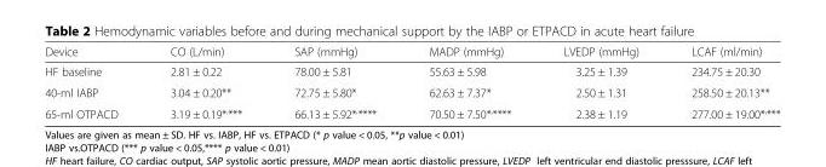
<table><thead><tr><td>Device</td><td>CO (L/min)</td><td>SAP (mmHg)</td><td>MADP (mmHg)</td><td>LVEDP (mmHg)</td><td>LCAF (ml/min)</td></tr></thead><tbody><tr><td>HF baseline</td><td>2.81 ± 0.22</td><td>78.00 ± 5.81</td><td>55.63 ± 5.98</td><td>3.25 ± 1.39</td><td>234.75 ± 20.30</td></tr><tr><td>40-ml IABP</td><td>3.04 ± 0.20**</td><td>72.75 ± 5.80*</td><td>62.63 ± 7.37*</td><td>2.50 ± 1.31</td><td>258.50 ± 20.13**</td></tr><tr><td>65-ml OTPACD</td><td>3.19 ± 0.19*<sup>,</sup>***</td><td>66.13 ± 5.92*<sup>,</sup>****</td><td>70.50 ± 7.50*<sup>,</sup>****</td><td>2.38 ± 1.19</td><td>277.00 ± 19.00*<sup>,</sup>***</td></tr></tbody></table>